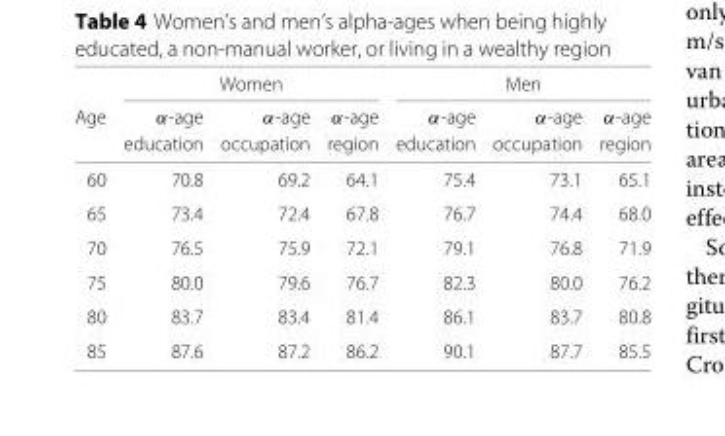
<table><thead><tr><td rowspan="3">Age</td><td colspan="3">Women</td><td colspan="3">Men</td></tr><tr><td rowspan="2">α-age education</td><td rowspan="2">α-age occupation</td><td rowspan="2">α-age region</td><td rowspan="2">α-age education</td><td rowspan="2">α-age occupation</td><td rowspan="2">α-age region</td></tr><tr></tr></thead><tbody><tr><td>60</td><td>70.8</td><td>69.2</td><td>64.1</td><td>75.4</td><td>73.1</td><td>65.1</td></tr><tr><td>65</td><td>73.4</td><td>72.4</td><td>67.8</td><td>76.7</td><td>74.4</td><td>68.0</td></tr><tr><td>70</td><td>76.5</td><td>75.9</td><td>72.1</td><td>79.1</td><td>76.8</td><td>71.9</td></tr><tr><td>75</td><td>80.0</td><td>79.6</td><td>76.7</td><td>82.3</td><td>80.0</td><td>76.2</td></tr><tr><td>80</td><td>83.7</td><td>83.4</td><td>81.4</td><td>86.1</td><td>83.7</td><td>80.8</td></tr><tr><td>85</td><td>87.6</td><td>87.2</td><td>86.2</td><td>90.1</td><td>87.7</td><td>85.5</td></tr></tbody></table>